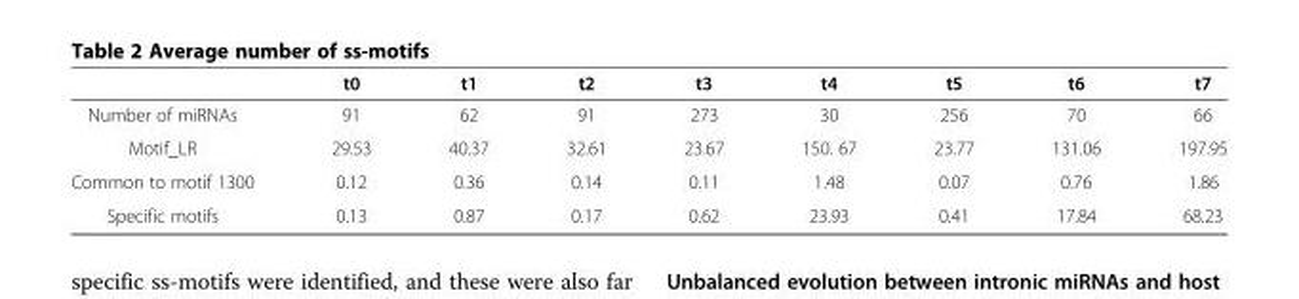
<table><thead><tr><td></td><td>t0</td><td>t1</td><td>t2</td><td>t3</td><td>t4</td><td>t5</td><td>t6</td><td>t7</td></tr></thead><tbody><tr><td>Number of miRNAs</td><td>91</td><td>62</td><td>91</td><td>273</td><td>30</td><td>256</td><td>70</td><td>66</td></tr><tr><td>Motif_LR</td><td>29.53</td><td>40.37</td><td>32.61</td><td>23.67</td><td>150. 67</td><td>23.77</td><td>131.06</td><td>197.95</td></tr><tr><td>Common to motif 1300</td><td>0.12</td><td>0.36</td><td>0.14</td><td>0.11</td><td>1.48</td><td>0.07</td><td>0.76</td><td>1.86</td></tr><tr><td>Specific motifs</td><td>0.13</td><td>0.87</td><td>0.17</td><td>0.62</td><td>23.93</td><td>0.41</td><td>17.84</td><td>68.23</td></tr></tbody></table>